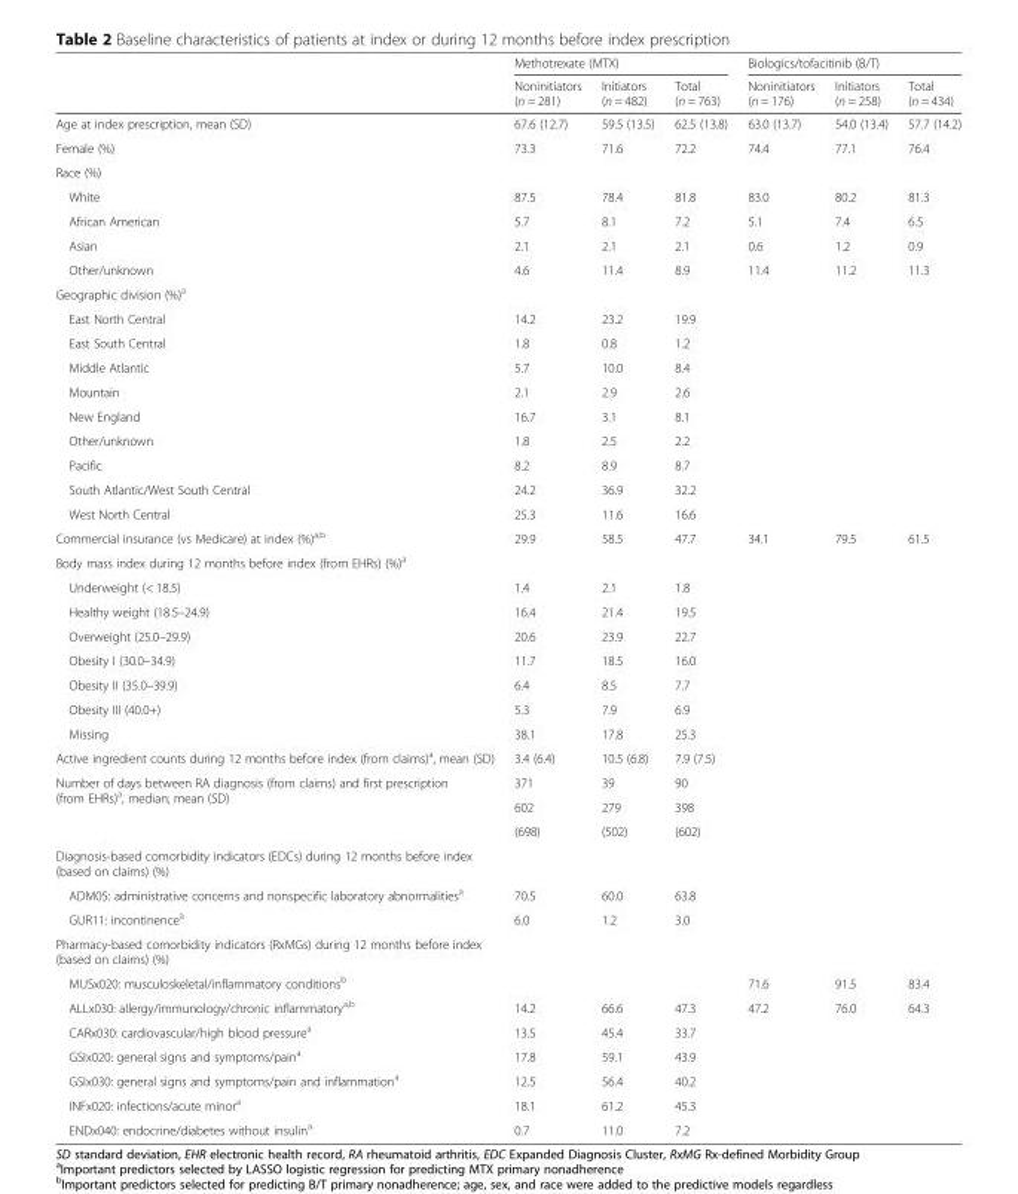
<table><thead><tr><td rowspan="2"></td><td colspan="3">Methotrexate (MTX)</td><td colspan="3">Biologics/tofacitinib (B/T)</td></tr><tr><td>Noninitiators (n = 281)</td><td>Initiators (n = 482)</td><td>Total (n = 763)</td><td>Noninitiators (n = 176)</td><td>Initiators (n = 258)</td><td>Total (n = 434)</td></tr></thead><tbody><tr><td>Age at index prescription, mean (SD)</td><td>67.6 (12.7)</td><td>59.5 (13.5)</td><td>62.5 (13.8)</td><td>63.0 (13.7)</td><td>54.0 (13.4)</td><td>57.7 (14.2)</td></tr><tr><td>Female (%)</td><td>73.3</td><td>71.6</td><td>72.2</td><td>74.4</td><td>77.1</td><td>76.4</td></tr><tr><td colspan="7">Race (%)</td></tr><tr><td>White</td><td>87.5</td><td>78.4</td><td>81.8</td><td>83.0</td><td>80.2</td><td>81.3</td></tr><tr><td>African American</td><td>5.7</td><td>8.1</td><td>7.2</td><td>5.1</td><td>7.4</td><td>6.5</td></tr><tr><td>Asian</td><td>2.1</td><td>2.1</td><td>2.1</td><td>0.6</td><td>1.2</td><td>0.9</td></tr><tr><td>Other/unknown</td><td>4.6</td><td>11.4</td><td>8.9</td><td>11.4</td><td>11.2</td><td>11.3</td></tr><tr><td colspan="7">Geographic division (%)<sup>a</sup></td></tr><tr><td>East North Central</td><td>14.2</td><td>23.2</td><td>19.9</td><td></td><td></td><td></td></tr><tr><td>East South Central</td><td>1.8</td><td>0.8</td><td>1.2</td><td></td><td></td><td></td></tr><tr><td>Middle Atlantic</td><td>5.7</td><td>10.0</td><td>8.4</td><td></td><td></td><td></td></tr><tr><td>Mountain</td><td>2.1</td><td>2.9</td><td>2.6</td><td></td><td></td><td></td></tr><tr><td>New England</td><td>16.7</td><td>3.1</td><td>8.1</td><td></td><td></td><td></td></tr><tr><td>Other/unknown</td><td>1.8</td><td>2.5</td><td>2.2</td><td></td><td></td><td></td></tr><tr><td>Pacific</td><td>8.2</td><td>8.9</td><td>8.7</td><td></td><td></td><td></td></tr><tr><td>South Atlantic/West South Central</td><td>24.2</td><td>36.9</td><td>32.2</td><td></td><td></td><td></td></tr><tr><td>West North Central</td><td>25.3</td><td>11.6</td><td>16.6</td><td></td><td></td><td></td></tr><tr><td>Commercial insurance (vs Medicare) at index (%)<sup>a,b</sup></td><td>29.9</td><td>58.5</td><td>47.7</td><td>34.1</td><td>79.5</td><td>61.5</td></tr><tr><td colspan="7">Body mass index during 12 months before index (from EHRs) (%)<sup>a</sup></td></tr><tr><td>Underweight (&lt; 18.5)</td><td>1.4</td><td>2.1</td><td>1.8</td><td></td><td></td><td></td></tr><tr><td>Healthy weight (18.5–24.9)</td><td>16.4</td><td>21.4</td><td>19.5</td><td></td><td></td><td></td></tr><tr><td>Overweight (25.0–29.9)</td><td>20.6</td><td>23.9</td><td>22.7</td><td></td><td></td><td></td></tr><tr><td>Obesity I (30.0–34.9)</td><td>11.7</td><td>18.5</td><td>16.0</td><td></td><td></td><td></td></tr><tr><td>Obesity II (35.0–39.9)</td><td>6.4</td><td>8.5</td><td>7.7</td><td></td><td></td><td></td></tr><tr><td>Obesity III (40.0+)</td><td>5.3</td><td>7.9</td><td>6.9</td><td></td><td></td><td></td></tr><tr><td>Missing</td><td>38.1</td><td>17.8</td><td>25.3</td><td></td><td></td><td></td></tr><tr><td>Active ingredient counts during 12 months before index (from claims)<sup>a</sup>, mean (SD)</td><td>3.4 (6.4)</td><td>10.5 (6.8)</td><td>7.9 (7.5)</td><td></td><td></td><td></td></tr><tr><td rowspan="3">Number of days between RA diagnosis (from claims) and first prescription (from EHRs)<sup>a</sup>, median; mean (SD)</td><td>371</td><td>39</td><td>90</td><td></td><td></td><td></td></tr><tr><td>602</td><td>279</td><td>398</td><td></td><td></td><td></td></tr><tr><td>(698)</td><td>(502)</td><td>(602)</td><td></td><td></td><td></td></tr><tr><td colspan="7">Diagnosis-based comorbidity indicators (EDCs) during 12 months before index (based on claims) (%)</td></tr><tr><td>ADM05: administrative concerns and nonspecific laboratory abnormalities<sup>a</sup></td><td>70.5</td><td>60.0</td><td>63.8</td><td></td><td></td><td></td></tr><tr><td>GUR11: incontinence<sup>a</sup></td><td>6.0</td><td>1.2</td><td>3.0</td><td></td><td></td><td></td></tr><tr><td colspan="7">Pharmacy-based comorbidity indicators (RxMGs) during 12 months before index (based on claims) (%)</td></tr><tr><td>MUSx020: musculoskeletal/inflammatory conditions<sup>b</sup></td><td></td><td></td><td></td><td>71.6</td><td>91.5</td><td>83.4</td></tr><tr><td>ALLx030: allergy/immunology/chronic inflammatory<sup>a,b</sup></td><td>14.2</td><td>66.6</td><td>47.3</td><td>47.2</td><td>76.0</td><td>64.3</td></tr><tr><td>CARx030: cardiovascular/high blood pressure<sup>a</sup></td><td>13.5</td><td>45.4</td><td>33.7</td><td></td><td></td><td></td></tr><tr><td>GSIx020: general signs and symptoms/pain<sup>a</sup></td><td>17.8</td><td>59.1</td><td>43.9</td><td></td><td></td><td></td></tr><tr><td>GSIx030: general signs and symptoms/pain and inflammation<sup>a</sup></td><td>12.5</td><td>56.4</td><td>40.2</td><td></td><td></td><td></td></tr><tr><td>INFx020: infections/acute minor<sup>a</sup></td><td>18.1</td><td>61.2</td><td>45.3</td><td></td><td></td><td></td></tr><tr><td>ENDx040: endocrine/diabetes without insulin<sup>a</sup></td><td>0.7</td><td>11.0</td><td>7.2</td><td></td><td></td><td></td></tr></tbody></table>